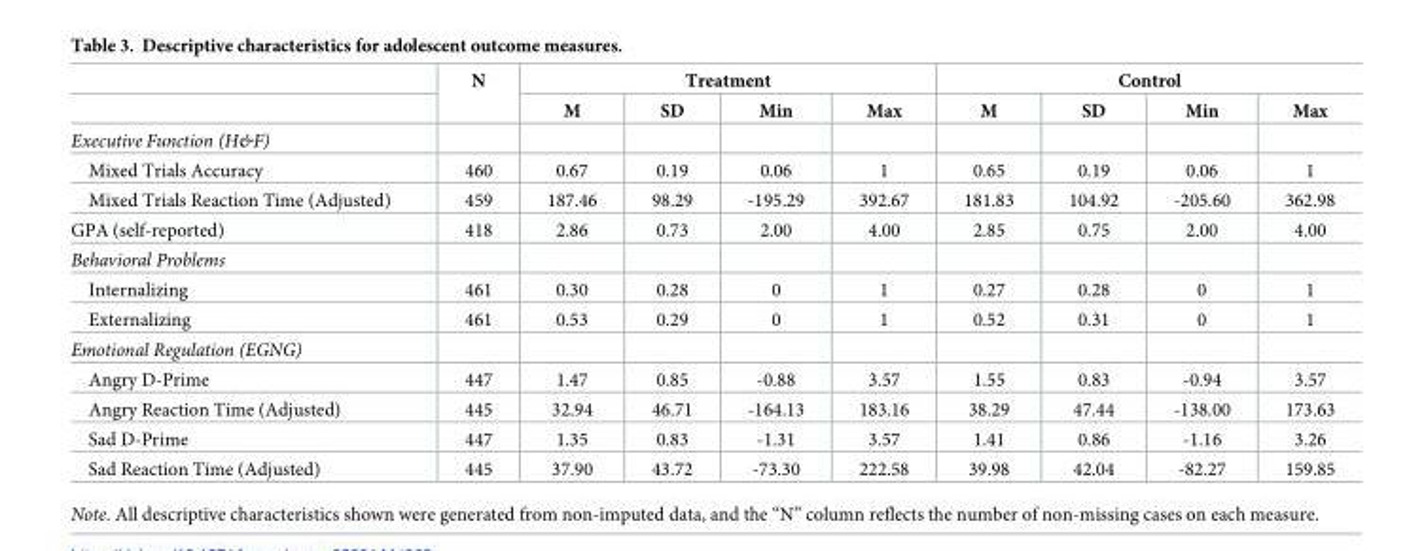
<table><thead><tr><td rowspan="2"></td><td rowspan="2">N</td><td colspan="4">Treatment</td><td colspan="4">Control</td></tr><tr><td>M</td><td>SD</td><td>Min</td><td>Max</td><td>M</td><td>SD</td><td>Min</td><td>Max</td></tr></thead><tbody><tr><td colspan="10">Executive Function (H&amp;F)</td></tr><tr><td>Mixed Trials Accuracy</td><td>460</td><td>0.67</td><td>0.19</td><td>0.06</td><td>1</td><td>0.65</td><td>0.19</td><td>0.06</td><td>1</td></tr><tr><td>Mixed Trials Reaction Time (Adjusted)</td><td>459</td><td>187.46</td><td>98.29</td><td>-195.29</td><td>392.67</td><td>181.83</td><td>104.92</td><td>-205.60</td><td>362.98</td></tr><tr><td>GPA (self-reported)</td><td>418</td><td>2.86</td><td>0.73</td><td>2.00</td><td>4.00</td><td>2.85</td><td>0.75</td><td>2.00</td><td>4.00</td></tr><tr><td colspan="10">Behavioral Problems</td></tr><tr><td>Internalizing</td><td>461</td><td>0.30</td><td>0.28</td><td>0</td><td>1</td><td>0.27</td><td>0.28</td><td>0</td><td>1</td></tr><tr><td>Externalizing</td><td>461</td><td>0.53</td><td>0.29</td><td>0</td><td>1</td><td>0.52</td><td>0.31</td><td>0</td><td>1</td></tr><tr><td colspan="10">Emotional Regulation (EGNG)</td></tr><tr><td>Angry D-Prime</td><td>447</td><td>1.47</td><td>0.85</td><td>-0.88</td><td>3.57</td><td>1.55</td><td>0.83</td><td>-0.94</td><td>3.57</td></tr><tr><td>Angry Reaction Time (Adjusted)</td><td>445</td><td>32.94</td><td>46.71</td><td>-164.13</td><td>183.16</td><td>38.29</td><td>47.44</td><td>-138.00</td><td>173.63</td></tr><tr><td>Sad D-Prime</td><td>447</td><td>1.35</td><td>0.83</td><td>-1.31</td><td>3.57</td><td>1.41</td><td>0.86</td><td>-1.16</td><td>3.26</td></tr><tr><td>Sad Reaction Time (Adjusted)</td><td>445</td><td>37.90</td><td>43.72</td><td>-73.30</td><td>222.58</td><td>39.98</td><td>42.04</td><td>-82.27</td><td>159.85</td></tr></tbody></table>